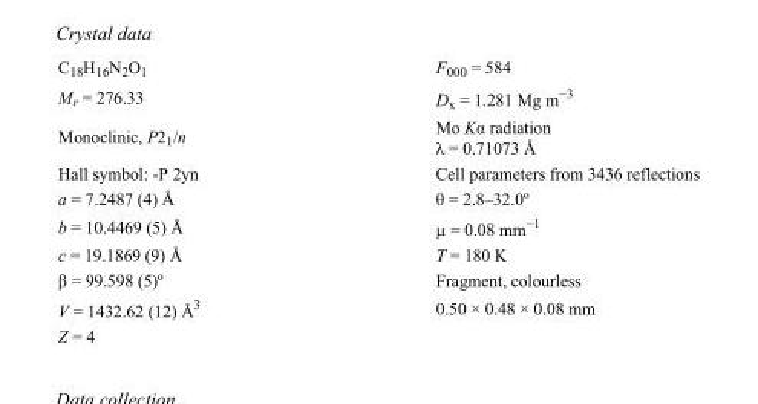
<table><tbody><tr><td>C18H16N2O1</td><td>F000 = 584</td></tr><tr><td>M<sub>r</sub> = 276.33</td><td>D<sub>x</sub> = 1.281 Mg m<sup>−3</sup></td></tr><tr><td>Monoclinic, P2<sub>1</sub>/n</td><td>Mo Kα radiation λ = 0.71073 Å</td></tr><tr><td>Hall symbol: -P 2yn</td><td>Cell parameters from 3436 reflections</td></tr><tr><td>a = 7.2487 (4) Å</td><td>θ = 2.8–32.0º</td></tr><tr><td>b = 10.4469 (5) Å</td><td>µ = 0.08 mm<sup>−1</sup></td></tr><tr><td>c = 19.1869 (9) Å</td><td>T = 180 K</td></tr><tr><td>β = 99.598 (5)º</td><td>Fragment, colourless</td></tr><tr><td>V = 1432.62 (12) Å<sup>3</sup></td><td>0.50 × 0.48 × 0.08 mm</td></tr><tr><td>Z = 4</td><td></td></tr></tbody></table>